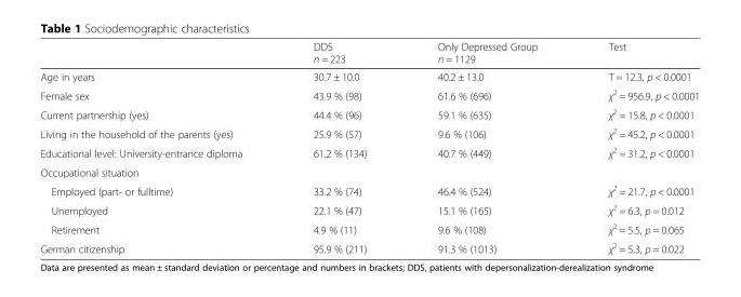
<table><thead><tr><td></td><td>DDS n = 223</td><td>Only Depressed Group n = 1129</td><td>Test</td></tr></thead><tbody><tr><td>Age in years</td><td>30.7 ± 10.0</td><td>40.2 ± 13.0</td><td>T = 12.3, p &lt; 0.0001</td></tr><tr><td>Female sex</td><td>43.9 % (98)</td><td>61.6 % (696)</td><td>χ<sup>2</sup> = 956.9, p &lt; 0.0001</td></tr><tr><td>Current partnership (yes)</td><td>44.4 % (96)</td><td>59.1 % (635)</td><td>χ<sup>2</sup> = 15.8, p &lt; 0.0001</td></tr><tr><td>Living in the household of the parents (yes)</td><td>25.9 % (57)</td><td>9.6 % (106)</td><td>χ<sup>2</sup> = 45.2, p &lt; 0.0001</td></tr><tr><td>Educational level: University-entrance diploma</td><td>61.2 % (134)</td><td>40.7 % (449)</td><td>χ<sup>2</sup> = 31.2, p &lt; 0.0001</td></tr><tr><td colspan="4">Occupational situation</td></tr><tr><td>Employed (part- or fulltime)</td><td>33.2 % (74)</td><td>46.4 % (524)</td><td>χ<sup>2</sup> = 21.7, p &lt; 0.0001</td></tr><tr><td>Unemployed</td><td>22.1 % (47)</td><td>15.1 % (165)</td><td>χ<sup>2</sup> = 6.3, p = 0.012</td></tr><tr><td>Retirement</td><td>4.9 % (11)</td><td>9.6 % (108)</td><td>χ<sup>2</sup> = 5.5, p = 0.065</td></tr><tr><td>German citizenship</td><td>95.9 % (211)</td><td>91.3 % (1013)</td><td>χ<sup>2</sup> = 5.3, p = 0.022</td></tr></tbody></table>